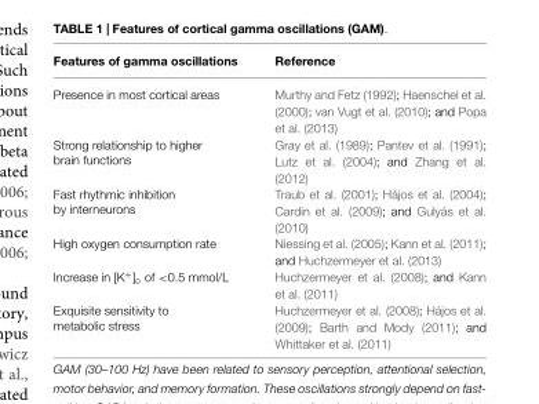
<table><thead><tr><td>Features of gamma oscillations</td><td>Reference</td></tr></thead><tbody><tr><td>Presence in most cortical areas</td><td>Murthy and Fetz (1992); Haenschel et al. (2000); van Vugt et al. (2010); and Popa et al. (2013)</td></tr><tr><td>Strong relationship to higher brain functions</td><td>Gray et al. (1989); Pantev et al. (1991); Lutz et al. (2004); and Zhang et al. (2012)</td></tr><tr><td>Fast rhythmic inhibition by interneurons</td><td>Traub et al. (2001); Hájos et al. (2004); Cardin et al. (2009); and Gulyás et al. (2010)</td></tr><tr><td>High oxygen consumption rate</td><td>Niessing et al. (2005); Kann et al. (2011); and Huchzermeyer et al. (2013)</td></tr><tr><td>Increase in [K<sup>+</sup>]<sub>o</sub> of &lt;0.5 mmol/L</td><td>Huchzermeyer et al. (2008); and Kann et al. (2011)</td></tr><tr><td>Exquisite sensitivity to metabolic stress</td><td>Huchzermeyer et al. (2008); Hájos et al. (2009); Barth and Mody (2011); and Whittaker et al. (2011)</td></tr></tbody></table>